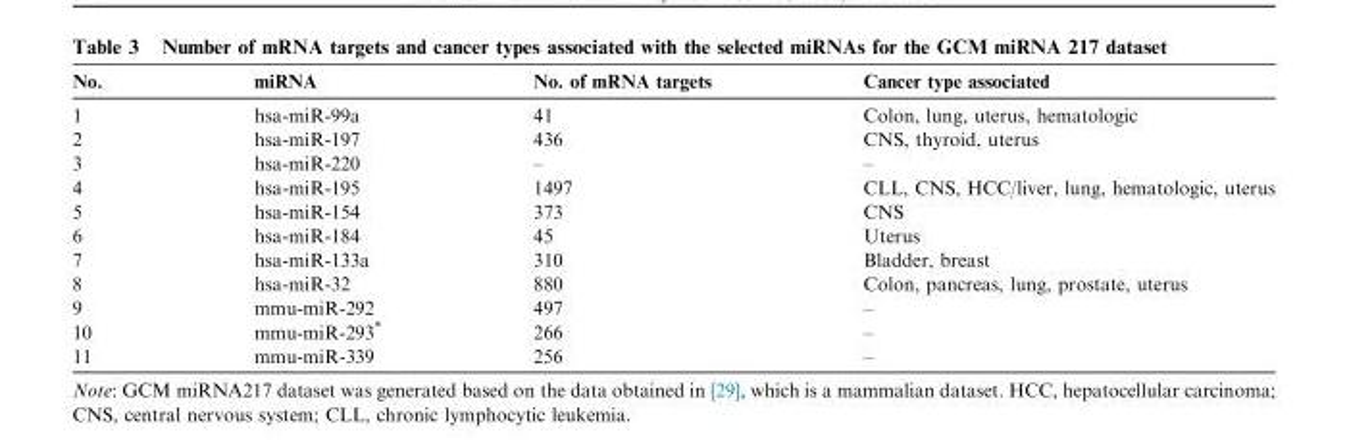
<table><thead><tr><td>No.</td><td>miRNA</td><td>No. of mRNA targets</td><td>Cancer type associated</td></tr></thead><tbody><tr><td>1</td><td>hsa-miR-99a</td><td>41</td><td>Colon, lung, uterus, hematologic</td></tr><tr><td>2</td><td>hsa-miR-197</td><td>436</td><td>CNS, thyroid, uterus</td></tr><tr><td>3</td><td>hsa-miR-220</td><td>–</td><td>–</td></tr><tr><td>4</td><td>hsa-miR-195</td><td>1497</td><td>CLL, CNS, HCC/liver, lung, hematologic, uterus</td></tr><tr><td>5</td><td>hsa-miR-154</td><td>373</td><td>CNS</td></tr><tr><td>6</td><td>hsa-miR-184</td><td>45</td><td>Uterus</td></tr><tr><td>7</td><td>hsa-miR-133a</td><td>310</td><td>Bladder, breast</td></tr><tr><td>8</td><td>hsa-miR-32</td><td>880</td><td>Colon, pancreas, lung, prostate, uterus</td></tr><tr><td>9</td><td>mmu-miR-292</td><td>497</td><td>–</td></tr><tr><td>10</td><td>mmu-miR-293*</td><td>266</td><td>–</td></tr><tr><td>11</td><td>mmu-miR-339</td><td>256</td><td>–</td></tr></tbody></table>